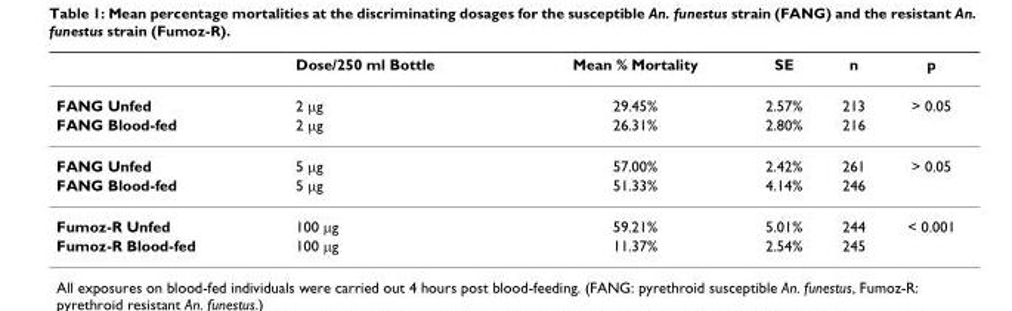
<table><thead><tr><td></td><td>Dose/250 ml Bottle</td><td>Mean % Mortality</td><td>SE</td><td>n</td><td>p</td></tr></thead><tbody><tr><td>FANG Unfed</td><td>2 μg</td><td>29.45%</td><td>2.57%</td><td>213</td><td>&gt; 0.05</td></tr><tr><td>FANG Blood-fed</td><td>2 μg</td><td>26.31%</td><td>2.80%</td><td>216</td><td></td></tr><tr><td>FANG Unfed</td><td>5 μg</td><td>57.00%</td><td>2.42%</td><td>261</td><td>&gt; 0.05</td></tr><tr><td>FANG Blood-fed</td><td>5 μg</td><td>51.33%</td><td>4.14%</td><td>246</td><td></td></tr><tr><td>Fumoz-R Unfed</td><td>100 μg</td><td>59.21%</td><td>5.01%</td><td>244</td><td>&lt; 0.001</td></tr><tr><td>Fumoz-R Blood-fed</td><td>100 μg</td><td>11.37%</td><td>2.54%</td><td>245</td><td></td></tr></tbody></table>